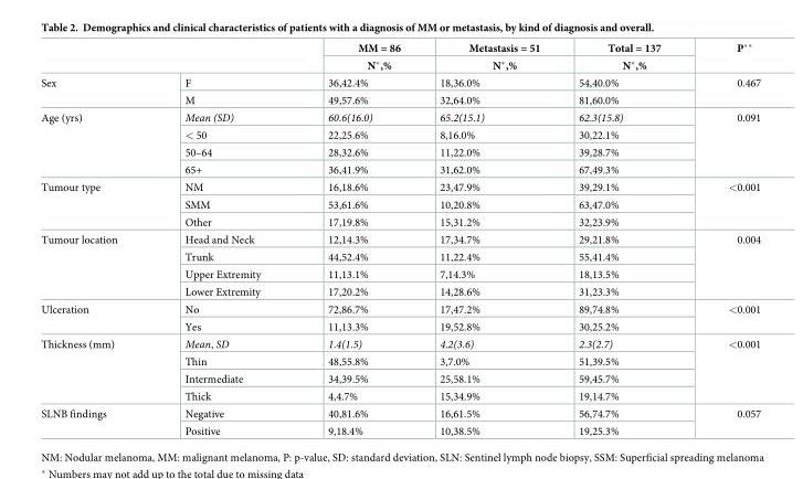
<table><thead><tr><td rowspan="2"></td><td rowspan="2"></td><td rowspan="2">MM = 86 N*,%</td><td rowspan="2">Metastasis = 51 N*,%</td><td rowspan="2">Total = 137 N*,%</td><td rowspan="2">P**</td></tr><tr></tr></thead><tbody><tr><td rowspan="2">Sex</td><td>F</td><td>36,42.4%</td><td>18,36.0%</td><td>54,40.0%</td><td rowspan="2">0.467</td></tr><tr><td>M</td><td>49,57.6%</td><td>32,64.0%</td><td>81,60.0%</td></tr><tr><td rowspan="4">Age (yrs)</td><td>Mean (SD)</td><td>60.6(16.0)</td><td>65.2(15.1)</td><td>62.3(15.8)</td><td rowspan="4">0.091</td></tr><tr><td>&lt; 50</td><td>22,25.6%</td><td>8,16.0%</td><td>30,22.1%</td></tr><tr><td>50–64</td><td>28,32.6%</td><td>11,22.0%</td><td>39,28.7%</td></tr><tr><td>65+</td><td>36,41.9%</td><td>31,62.0%</td><td>67,49.3%</td></tr><tr><td rowspan="3">Tumour type</td><td>NM</td><td>16,18.6%</td><td>23,47.9%</td><td>39,29.1%</td><td rowspan="3">&lt;0.001</td></tr><tr><td>SMM</td><td>53,61.6%</td><td>10,20.8%</td><td>63,47.0%</td></tr><tr><td>Other</td><td>17,19.8%</td><td>15,31.2%</td><td>32,23.9%</td></tr><tr><td rowspan="4">Tumour location</td><td>Head and Neck</td><td>12,14.3%</td><td>17,34.7%</td><td>29,21.8%</td><td rowspan="4">0.004</td></tr><tr><td>Trunk</td><td>44,52.4%</td><td>11,22.4%</td><td>55,41.4%</td></tr><tr><td>Upper Extremity</td><td>11,13.1%</td><td>7,14.3%</td><td>18,13.5%</td></tr><tr><td>Lower Extremity</td><td>17,20.2%</td><td>14,28.6%</td><td>31,23.3%</td></tr><tr><td rowspan="2">Ulceration</td><td>No</td><td>72,86.7%</td><td>17,47.2%</td><td>89,74.8%</td><td rowspan="2">&lt;0.001</td></tr><tr><td>Yes</td><td>11,13.3%</td><td>19,52.8%</td><td>30,25.2%</td></tr><tr><td rowspan="4">Thickness (mm)</td><td>Mean, SD</td><td>1.4(1.5)</td><td>4.2(3.6)</td><td>2.3(2.7)</td><td rowspan="4">&lt;0.001</td></tr><tr><td>Thin</td><td>48,55.8%</td><td>3,7.0%</td><td>51,39.5%</td></tr><tr><td>Intermediate</td><td>34,39.5%</td><td>25,58.1%</td><td>59,45.7%</td></tr><tr><td>Thick</td><td>4,4.7%</td><td>15,34.9%</td><td>19,14.7%</td></tr><tr><td rowspan="2">SLNB findings</td><td>Negative</td><td>40,81.6%</td><td>16,61.5%</td><td>56,74.7%</td><td rowspan="2">0.057</td></tr><tr><td>Positive</td><td>9,18.4%</td><td>10,38.5%</td><td>19,25.3%</td></tr></tbody></table>